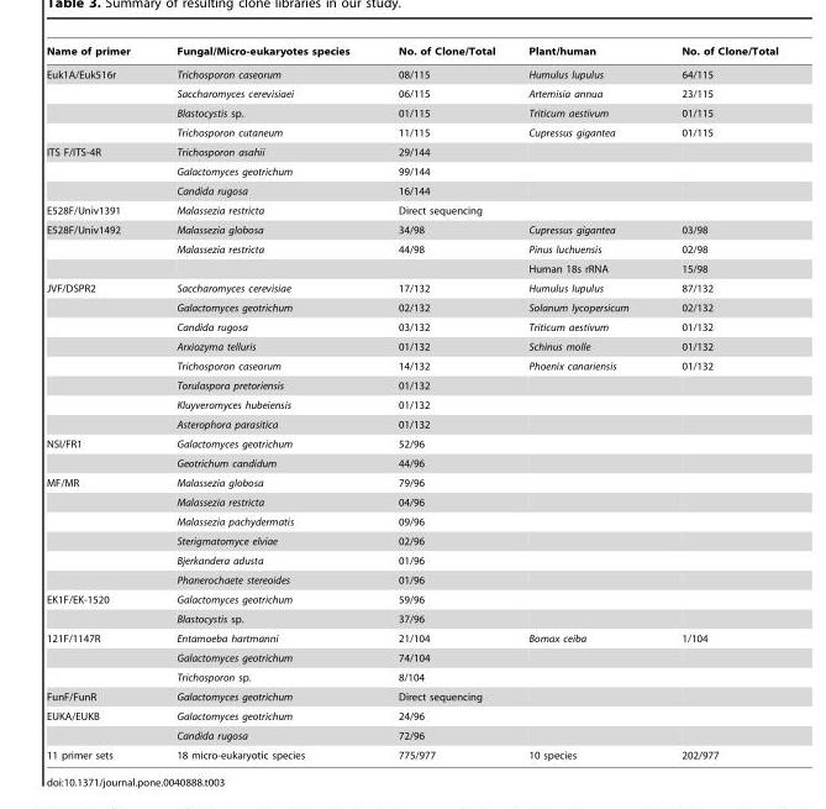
<table><thead><tr><td>Name of primer</td><td>Fungal/Micro-eukaryotes species</td><td>No. of Clone/Total</td><td>Plant/human</td><td>No. of Clone/Total</td></tr></thead><tbody><tr><td rowspan="4">Euk1A/Euk516r</td><td>Trichosporon caseorum</td><td>08/115</td><td>Humulus lupulus</td><td>64/115</td></tr><tr><td>Saccharomyces cerevisiaei</td><td>06/115</td><td>Artemisia annua</td><td>23/115</td></tr><tr><td>Blastocystis sp.</td><td>01/115</td><td>Triticum aestivum</td><td>01/115</td></tr><tr><td>Trichosporon cutaneum</td><td>11/115</td><td>Cupressus gigantea</td><td>01/115</td></tr><tr><td rowspan="3">ITS F/ITS-4R</td><td>Trichosporon asahii</td><td>29/144</td><td></td><td></td></tr><tr><td>Galactomyces geotrichum</td><td>99/144</td><td></td><td></td></tr><tr><td>Candida rugosa</td><td>16/144</td><td></td><td></td></tr><tr><td>E528F/Univ1391</td><td>Malassezia restricta</td><td>Direct sequencing</td><td></td><td></td></tr><tr><td rowspan="3">E528F/Univ1492</td><td>Malassezia globosa</td><td>34/98</td><td>Cupressus gigantea</td><td>03/98</td></tr><tr><td>Malassezia restricta</td><td>44/98</td><td>Pinus luchuensis</td><td>02/98</td></tr><tr><td></td><td></td><td>Human 18s rRNA</td><td>15/98</td></tr><tr><td rowspan="8">JVF/DSPR2</td><td>Saccharomyces cerevisiae</td><td>17/132</td><td>Humulus lupulus</td><td>87/132</td></tr><tr><td>Galactomyces geotrichum</td><td>02/132</td><td>Solanum lycopersicum</td><td>02/132</td></tr><tr><td>Candida rugosa</td><td>03/132</td><td>Triticum aestivum</td><td>01/132</td></tr><tr><td>Arxiozyma telluris</td><td>01/132</td><td>Schinus molle</td><td>01/132</td></tr><tr><td>Trichosporon caseorum</td><td>14/132</td><td>Phoenix canariensis</td><td>01/132</td></tr><tr><td>Torulaspora pretoriensis</td><td>01/132</td><td></td><td></td></tr><tr><td>Kluyveromyces hubeiensis</td><td>01/132</td><td></td><td></td></tr><tr><td>Asterophora parasitica</td><td>01/132</td><td></td><td></td></tr><tr><td rowspan="2">NSI/FR1</td><td>Galactomyces geotrichum</td><td>52/96</td><td></td><td></td></tr><tr><td>Geotrichum candidum</td><td>44/96</td><td></td><td></td></tr><tr><td rowspan="6">MF/MR</td><td>Malassezia globosa</td><td>79/96</td><td></td><td></td></tr><tr><td>Malassezia restricta</td><td>04/96</td><td></td><td></td></tr><tr><td>Malassezia pachydermatis</td><td>09/96</td><td></td><td></td></tr><tr><td>Sterigmatomyce elviae</td><td>02/96</td><td></td><td></td></tr><tr><td>Bjerkandera adusta</td><td>01/96</td><td></td><td></td></tr><tr><td>Phanerochaete stereoides</td><td>01/96</td><td></td><td></td></tr><tr><td rowspan="2">EK1F/EK-1520</td><td>Galactomyces geotrichum</td><td>59/96</td><td></td><td></td></tr><tr><td>Blastocystis sp.</td><td>37/96</td><td></td><td></td></tr><tr><td rowspan="3">121F/1147R</td><td>Entamoeba hartmanni</td><td>21/104</td><td>Bomax ceiba</td><td>1/104</td></tr><tr><td>Galactomyces geotrichum</td><td>74/104</td><td></td><td></td></tr><tr><td>Trichosporon sp.</td><td>8/104</td><td></td><td></td></tr><tr><td>FunF/FunR</td><td>Galactomyces geotrichum</td><td>Direct sequencing</td><td></td><td></td></tr><tr><td rowspan="2">EUKA/EUKB</td><td>Galactomyces geotrichum</td><td>24/96</td><td></td><td></td></tr><tr><td>Candida rugosa</td><td>72/96</td><td></td><td></td></tr><tr><td>11 primer sets</td><td>18 micro-eukaryotic species</td><td>775/977</td><td>10 species</td><td>202/977</td></tr></tbody></table>